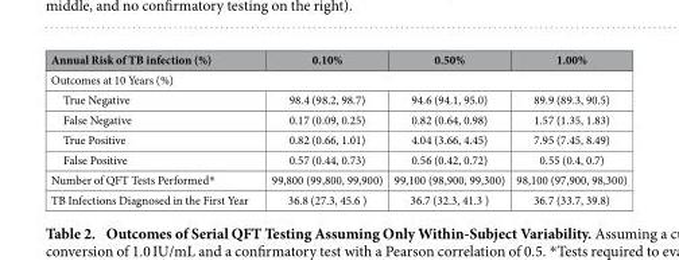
<table><thead><tr><td>Annual Risk of TB infection (%)</td><td>0.10%</td><td>0.50%</td><td>1.00%</td></tr></thead><tbody><tr><td colspan="4">Outcomes at 10 Years (%)</td></tr><tr><td>True Negative</td><td>98.4 (98.2, 98.7)</td><td>94.6 (94.1, 95.0)</td><td>89.9 (89.3, 90.5)</td></tr><tr><td>False Negative</td><td>0.17 (0.09, 0.25)</td><td>0.82 (0.64, 0.98)</td><td>1.57 (1.35, 1.83)</td></tr><tr><td>True Positive</td><td>0.82 (0.66, 1.01)</td><td>4.04 (3.66, 4.45)</td><td>7.95 (7.45, 8.49)</td></tr><tr><td>False Positive</td><td>0.57 (0.44, 0.73)</td><td>0.56 (0.42, 0.72)</td><td>0.55 (0.4, 0.7)</td></tr><tr><td>Number of QFT Tests Performed*</td><td>99,800 (99,800, 99,900)</td><td>99,100 (98,900, 99,300)</td><td>98,100 (97,900, 98,300)</td></tr><tr><td>TB Infections Diagnosed in the First Year</td><td>36.8 (27.3, 45.6 )</td><td>36.7 (32.3, 41.3 )</td><td>36.7 (33.7, 39.8)</td></tr></tbody></table>